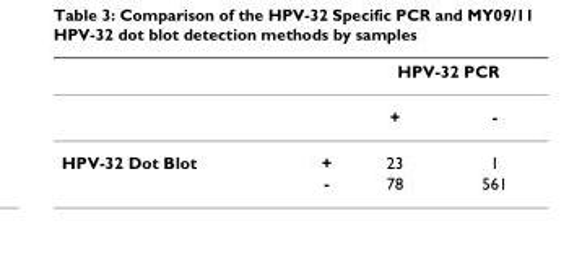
<table><thead><tr><td rowspan="2"></td><td rowspan="2"></td><td colspan="2">HPV-32 PCR</td></tr><tr><td>+</td><td>-</td></tr></thead><tbody><tr><td rowspan="2">HPV-32 Dot Blot</td><td>+</td><td>23</td><td>1</td></tr><tr><td>-</td><td>78</td><td>561</td></tr></tbody></table>